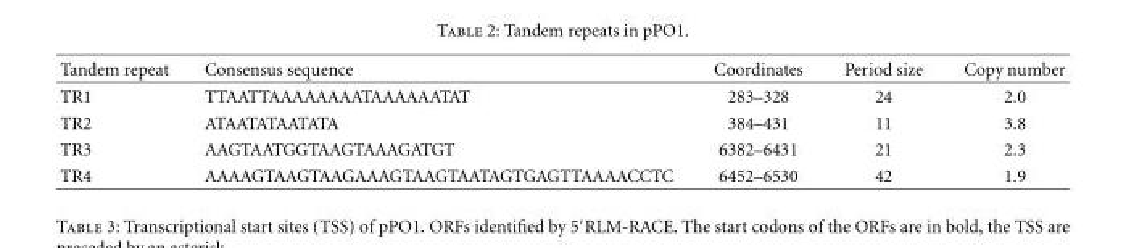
<table><thead><tr><td>Tandem repeat</td><td>Consensus sequence</td><td>Coordinates</td><td>Period size</td><td>Copy number</td></tr></thead><tbody><tr><td>TR1</td><td>TTAATTAAAAAAAATAAAAAATAT</td><td>283–328</td><td>24</td><td>2.0</td></tr><tr><td>TR2</td><td>ATAATATAATATA</td><td>384–431</td><td>11</td><td>3.8</td></tr><tr><td>TR3</td><td>AAGTAATGGTAAGTAAAGATGT</td><td>6382–6431</td><td>21</td><td>2.3</td></tr><tr><td>TR4</td><td>AAAAGTAAGTAAGAAAGTAAGTAATAGTGAGTTAAAACCTC</td><td>6452–6530</td><td>42</td><td>1.9</td></tr></tbody></table>